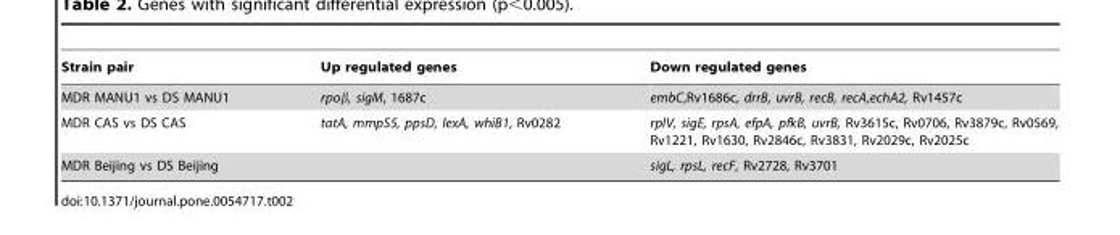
<table><thead><tr><td>Strain pair</td><td>Up regulated genes</td><td>Down regulated genes</td></tr></thead><tbody><tr><td>MDR MANU1 vs DS MANU1</td><td>rpoβ, sigM, 1687c</td><td>embC,Rv1686c, drrB, uvrB, recB, recA,echA2, Rv1457c</td></tr><tr><td>MDR CAS vs DS CAS</td><td>tatA, mmpS5, ppsD, lexA, whiB1, Rv0282</td><td>rplV, sigE, rpsA, efpA, pfkB, uvrB, Rv3615c, Rv0706, Rv3879c, Rv0569, Rv1221, Rv1630, Rv2846c, Rv3831, Rv2029c, Rv2025c</td></tr><tr><td>MDR Beijing vs DS Beijing</td><td></td><td>sigL, rpsL, recF, Rv2728, Rv3701</td></tr></tbody></table>